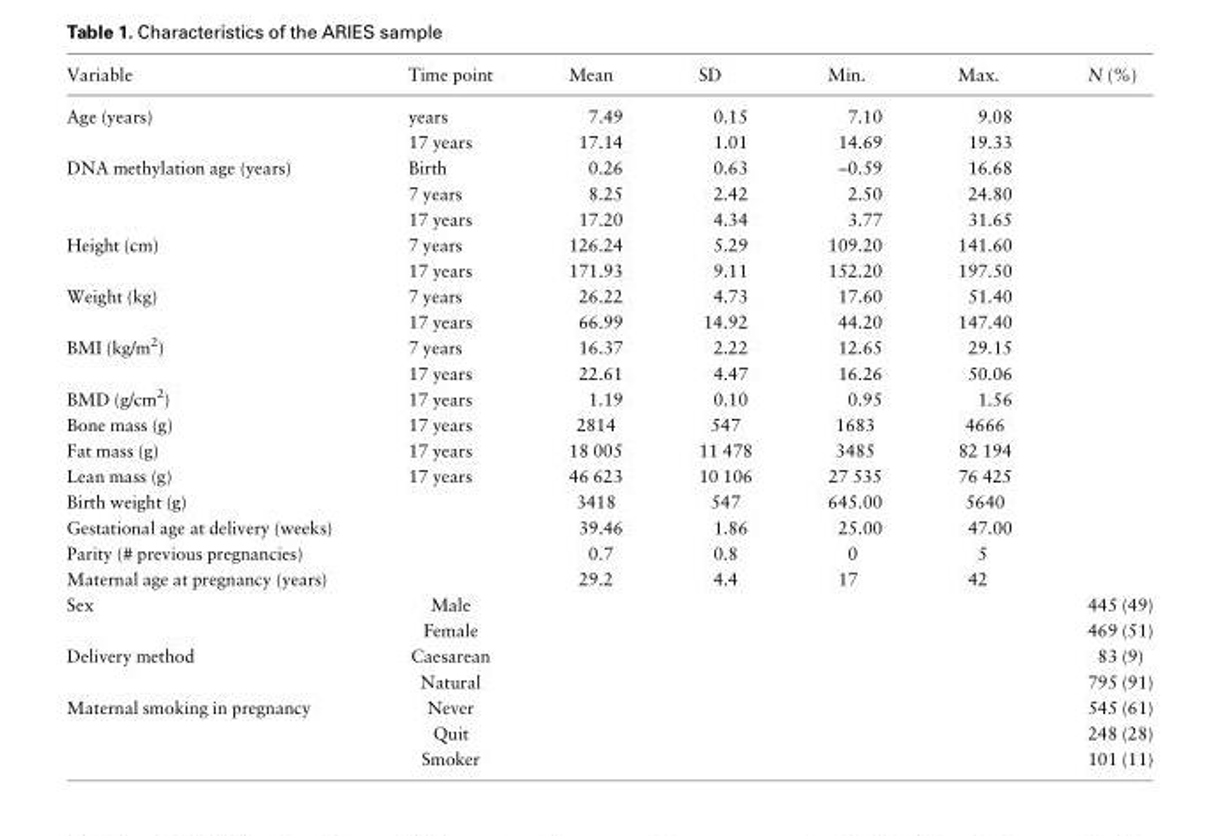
<table><thead><tr><td>Variable</td><td>Time point</td><td>Mean</td><td>SD</td><td>Min.</td><td>Max.</td><td>N (%)</td></tr></thead><tbody><tr><td rowspan="2">Age (years)</td><td>years</td><td>7.49</td><td>0.15</td><td>7.10</td><td>9.08</td><td></td></tr><tr><td>17 years</td><td>17.14</td><td>1.01</td><td>14.69</td><td>19.33</td><td></td></tr><tr><td rowspan="3">DNA methylation age (years)</td><td>Birth</td><td>0.26</td><td>0.63</td><td>–0.59</td><td>16.68</td><td></td></tr><tr><td>7 years</td><td>8.25</td><td>2.42</td><td>2.50</td><td>24.80</td><td></td></tr><tr><td>17 years</td><td>17.20</td><td>4.34</td><td>3.77</td><td>31.65</td><td></td></tr><tr><td rowspan="2">Height (cm)</td><td>7 years</td><td>126.24</td><td>5.29</td><td>109.20</td><td>141.60</td><td></td></tr><tr><td>17 years</td><td>171.93</td><td>9.11</td><td>152.20</td><td>197.50</td><td></td></tr><tr><td rowspan="2">Weight (kg)</td><td>7 years</td><td>26.22</td><td>4.73</td><td>17.60</td><td>51.40</td><td></td></tr><tr><td>17 years</td><td>66.99</td><td>14.92</td><td>44.20</td><td>147.40</td><td></td></tr><tr><td rowspan="2">BMI (kg/m<sup>2</sup>)</td><td>7 years</td><td>16.37</td><td>2.22</td><td>12.65</td><td>29.15</td><td></td></tr><tr><td>17 years</td><td>22.61</td><td>4.47</td><td>16.26</td><td>50.06</td><td></td></tr><tr><td>BMD (g/cm<sup>2</sup>)</td><td>17 years</td><td>1.19</td><td>0.10</td><td>0.95</td><td>1.56</td><td></td></tr><tr><td>Bone mass (g)</td><td>17 years</td><td>2814</td><td>547</td><td>1683</td><td>4666</td><td></td></tr><tr><td>Fat mass (g)</td><td>17 years</td><td>18 005</td><td>11 478</td><td>3485</td><td>82 194</td><td></td></tr><tr><td>Lean mass (g)</td><td>17 years</td><td>46 623</td><td>10 106</td><td>27 535</td><td>76 425</td><td></td></tr><tr><td>Birth weight (g)</td><td></td><td>3418</td><td>547</td><td>645.00</td><td>5640</td><td></td></tr><tr><td>Gestational age at delivery (weeks)</td><td></td><td>39.46</td><td>1.86</td><td>25.00</td><td>47.00</td><td></td></tr><tr><td>Parity (# previous pregnancies)</td><td></td><td>0.7</td><td>0.8</td><td>0</td><td>5</td><td></td></tr><tr><td>Maternal age at pregnancy (years)</td><td></td><td>29.2</td><td>4.4</td><td>17</td><td>42</td><td></td></tr><tr><td rowspan="2">Sex</td><td>Male</td><td></td><td></td><td></td><td></td><td>445 (49)</td></tr><tr><td>Female</td><td></td><td></td><td></td><td></td><td>469 (51)</td></tr><tr><td rowspan="2">Delivery method</td><td>Caesarean</td><td></td><td></td><td></td><td></td><td>83 (9)</td></tr><tr><td>Natural</td><td></td><td></td><td></td><td></td><td>795 (91)</td></tr><tr><td rowspan="3">Maternal smoking in pregnancy</td><td>Never</td><td></td><td></td><td></td><td></td><td>545 (61)</td></tr><tr><td>Quit</td><td></td><td></td><td></td><td></td><td>248 (28)</td></tr><tr><td>Smoker</td><td></td><td></td><td></td><td></td><td>101 (11)</td></tr></tbody></table>